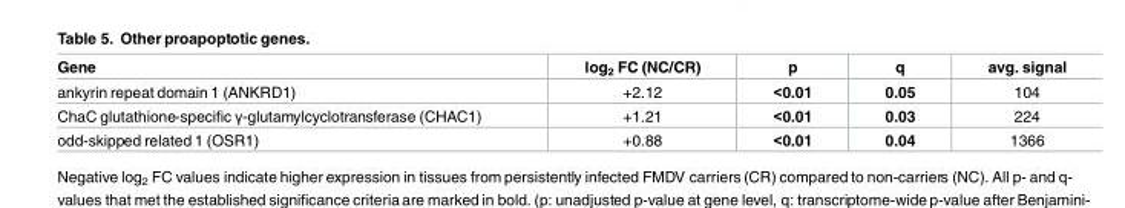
<table><thead><tr><td>Gene</td><td>log<sub>2</sub> FC (NC/CR)</td><td>p</td><td>q</td><td>avg. signal</td></tr></thead><tbody><tr><td>ankyrin repeat domain 1 (ANKRD1)</td><td>+2.12</td><td>&lt;0.01</td><td>0.05</td><td>104</td></tr><tr><td>ChaC glutathione-specific γ-glutamylcyclotransferase (CHAC1)</td><td>+1.21</td><td>&lt;0.01</td><td>0.03</td><td>224</td></tr><tr><td>odd-skipped related 1 (OSR1)</td><td>+0.88</td><td>&lt;0.01</td><td>0.04</td><td>1366</td></tr></tbody></table>